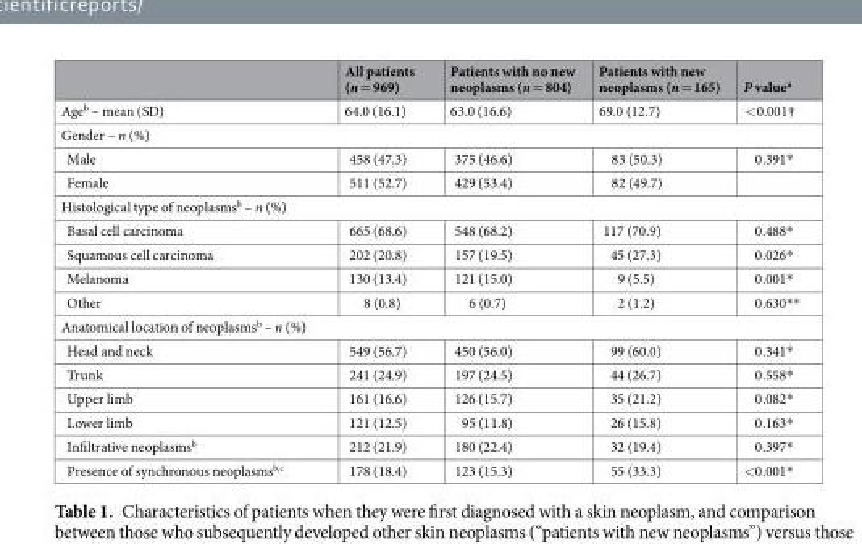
<table><thead><tr><td></td><td>All patients (n = 969)</td><td>Patients with no new neoplasms (n = 804)</td><td>Patients with new neoplasms (n = 165)</td><td>P value<sup>a</sup></td></tr></thead><tbody><tr><td>Age<sup>b</sup> – mean (SD)</td><td>64.0 (16.1)</td><td>63.0 (16.6)</td><td>69.0 (12.7)</td><td>&lt;0.001†</td></tr><tr><td colspan="5">Gender – n (%)</td></tr><tr><td>Male</td><td>458 (47.3)</td><td>375 (46.6)</td><td>83 (50.3)</td><td>0.391*</td></tr><tr><td>Female</td><td>511 (52.7)</td><td>429 (53.4)</td><td>82 (49.7)</td><td></td></tr><tr><td colspan="5">Histological type of neoplasms<sup>b</sup> – n (%)</td></tr><tr><td>Basal cell carcinoma</td><td>665 (68.6)</td><td>548 (68.2)</td><td>117 (70.9)</td><td>0.488*</td></tr><tr><td>Squamous cell carcinoma</td><td>202 (20.8)</td><td>157 (19.5)</td><td>45 (27.3)</td><td>0.026*</td></tr><tr><td>Melanoma</td><td>130 (13.4)</td><td>121 (15.0)</td><td>9 (5.5)</td><td>0.001*</td></tr><tr><td>Other</td><td>8 (0.8)</td><td>6 (0.7)</td><td>2 (1.2)</td><td>0.630**</td></tr><tr><td colspan="5">Anatomical location of neoplasms<sup>b</sup> – n (%)</td></tr><tr><td>Head and neck</td><td>549 (56.7)</td><td>450 (56.0)</td><td>99 (60.0)</td><td>0.341*</td></tr><tr><td>Trunk</td><td>241 (24.9)</td><td>197 (24.5)</td><td>44 (26.7)</td><td>0.558*</td></tr><tr><td>Upper limb</td><td>161 (16.6)</td><td>126 (15.7)</td><td>35 (21.2)</td><td>0.082*</td></tr><tr><td>Lower limb</td><td>121 (12.5)</td><td>95 (11.8)</td><td>26 (15.8)</td><td>0.163*</td></tr><tr><td>Infiltrative neoplasms<sup>b</sup></td><td>212 (21.9)</td><td>180 (22.4)</td><td>32 (19.4)</td><td>0.397*</td></tr><tr><td>Presence of synchronous neoplasms<sup>b,c</sup></td><td>178 (18.4)</td><td>123 (15.3)</td><td>55 (33.3)</td><td>&lt;0.001*</td></tr></tbody></table>